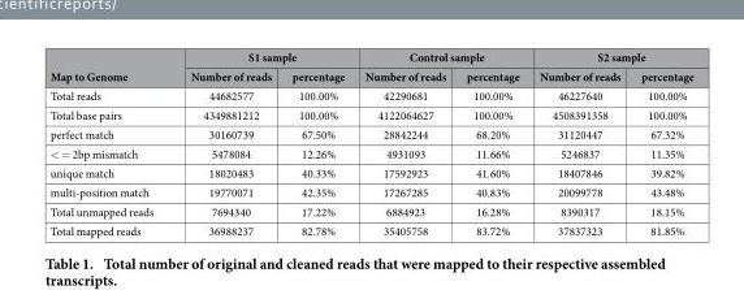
<table><thead><tr><td rowspan="2">Map to Genome</td><td colspan="2">S1 sample</td><td colspan="2">Control sample</td><td colspan="2">S2 sample</td></tr><tr><td>Number of reads</td><td>percentage</td><td>Number of reads</td><td>percentage</td><td>Number of reads</td><td>percentage</td></tr></thead><tbody><tr><td>Total reads</td><td>44682577</td><td>100.00%</td><td>42290681</td><td>100.00%</td><td>46227640</td><td>100.00%</td></tr><tr><td>Total base pairs</td><td>4349881212</td><td>100.00%</td><td>4122064627</td><td>100.00%</td><td>4508391358</td><td>100.00%</td></tr><tr><td>perfect match</td><td>30160739</td><td>67.50%</td><td>28842244</td><td>68.20%</td><td>31120447</td><td>67.32%</td></tr><tr><td>&lt; = 2bp mismatch</td><td>5478084</td><td>12.26%</td><td>4931093</td><td>11.66%</td><td>5246837</td><td>11.35%</td></tr><tr><td>unique match</td><td>18020483</td><td>40.33%</td><td>17592923</td><td>41.60%</td><td>18407846</td><td>39.82%</td></tr><tr><td>multi-position match</td><td>19770071</td><td>42.35%</td><td>17267285</td><td>40.83%</td><td>20099778</td><td>43.48%</td></tr><tr><td>Total unmapped reads</td><td>7694340</td><td>17.22%</td><td>6884923</td><td>16.28%</td><td>8390317</td><td>18.15%</td></tr><tr><td>Total mapped reads</td><td>36988237</td><td>82.78%</td><td>35405758</td><td>83.72%</td><td>37837323</td><td>81.85%</td></tr></tbody></table>